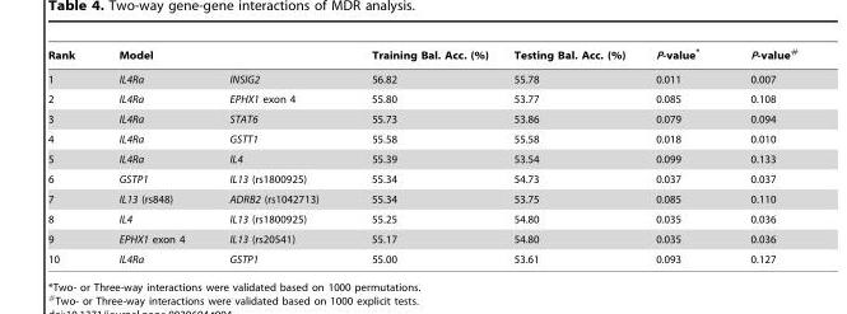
<table><thead><tr><td rowspan="2">Rank 1</td><td colspan="2">Model</td><td rowspan="2">Training Bal. Acc. (%) 56.82</td><td rowspan="2">Testing Bal. Acc. (%) 55.78</td><td rowspan="2">P-value* 0.011</td><td rowspan="2">P-value# 0.007</td></tr><tr><td>IL4Ra</td><td>INSIG2</td></tr></thead><tbody><tr><td>2</td><td>IL4Ra</td><td>EPHX1 exon 4</td><td>55.80</td><td>53.77</td><td>0.085</td><td>0.108</td></tr><tr><td>3</td><td>IL4Ra</td><td>STAT6</td><td>55.73</td><td>53.86</td><td>0.079</td><td>0.094</td></tr><tr><td>4</td><td>IL4Ra</td><td>GSTT1</td><td>55.58</td><td>55.58</td><td>0.018</td><td>0.010</td></tr><tr><td>5</td><td>IL4Ra</td><td>IL4</td><td>55.39</td><td>53.54</td><td>0.099</td><td>0.133</td></tr><tr><td>6</td><td>GSTP1</td><td>IL13 (rs1800925)</td><td>55.34</td><td>54.73</td><td>0.037</td><td>0.037</td></tr><tr><td>7</td><td>IL13 (rs848)</td><td>ADRB2 (rs1042713)</td><td>55.34</td><td>53.75</td><td>0.085</td><td>0.110</td></tr><tr><td>8</td><td>IL4</td><td>IL13 (rs1800925)</td><td>55.25</td><td>54.80</td><td>0.035</td><td>0.036</td></tr><tr><td>9</td><td>EPHX1 exon 4</td><td>IL13 (rs20541)</td><td>55.17</td><td>54.80</td><td>0.035</td><td>0.036</td></tr><tr><td>10</td><td>IL4Ra</td><td>GSTP1</td><td>55.00</td><td>53.61</td><td>0.093</td><td>0.127</td></tr></tbody></table>